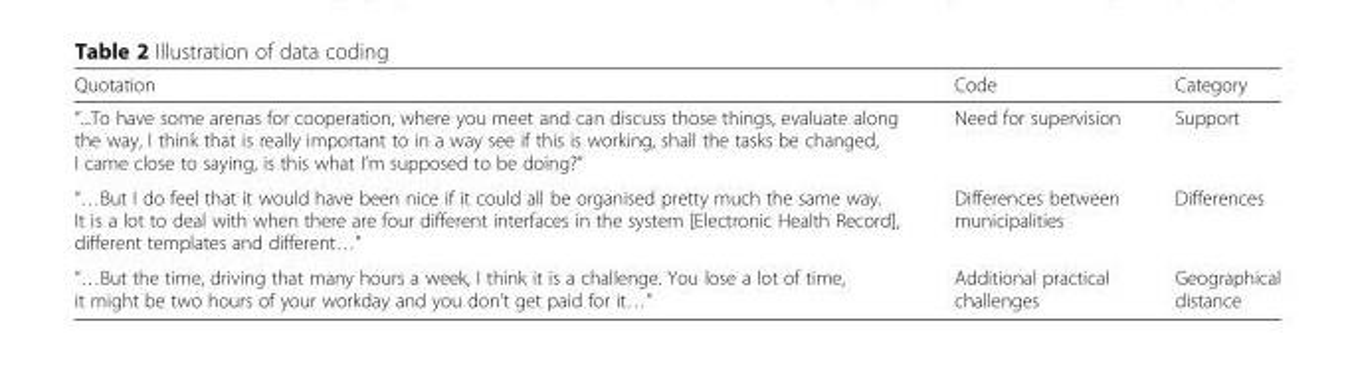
<table><thead><tr><td>Quotation</td><td>Code</td><td>Category</td></tr></thead><tbody><tr><td>“...To have some arenas for cooperation, where you meet and can discuss those things, evaluate along the way, I think that is really important to in a way see if this is working, shall the tasks be changed, I came close to saying, is this what I’m supposed to be doing?”</td><td>Need for supervision</td><td>Support</td></tr><tr><td>“…But I do feel that it would have been nice if it could all be organised pretty much the same way. It is a lot to deal with when there are four different interfaces in the system [Electronic Health Record], different templates and different…”</td><td>Differences between municipalities</td><td>Differences</td></tr><tr><td>“…But the time, driving that many hours a week, I think it is a challenge. You lose a lot of time, it might be two hours of your workday and you don’t get paid for it…”</td><td>Additional practical challenges</td><td>Geographical distance</td></tr></tbody></table>